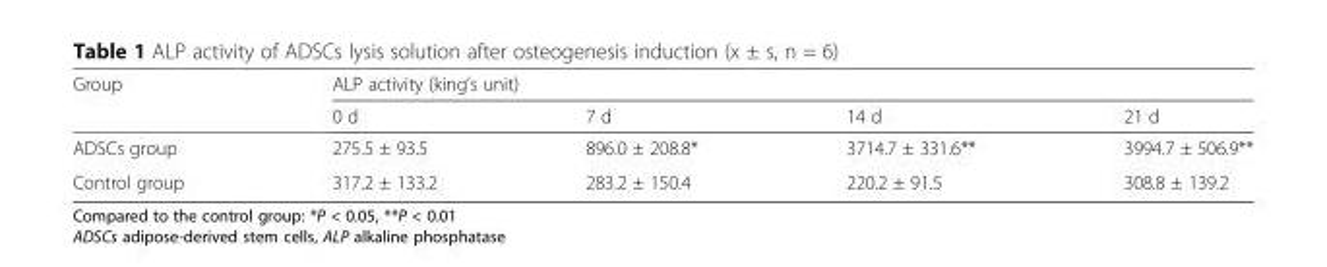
<table><thead><tr><td rowspan="2">Group</td><td colspan="4">ALP activity (king’s unit)</td></tr><tr><td>0 d</td><td>7 d</td><td>14 d</td><td>21 d</td></tr></thead><tbody><tr><td>ADSCs group</td><td>275.5 ± 93.5</td><td>896.0 ± 208.8*</td><td>3714.7 ± 331.6**</td><td>3994.7 ± 506.9**</td></tr><tr><td>Control group</td><td>317.2 ± 133.2</td><td>283.2 ± 150.4</td><td>220.2 ± 91.5</td><td>308.8 ± 139.2</td></tr></tbody></table>